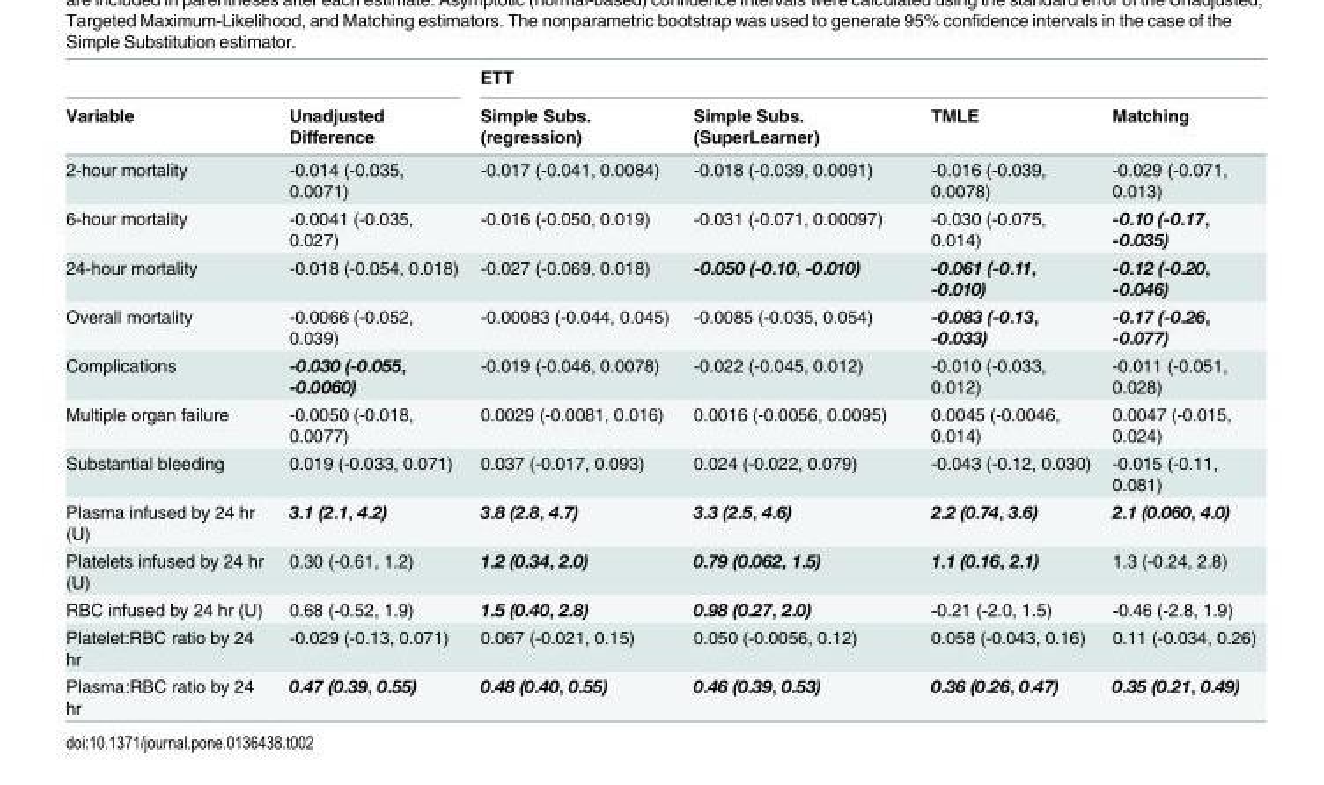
<table><thead><tr><td rowspan="2">Variable</td><td rowspan="2">Unadjusted Difference</td><td colspan="4">ETT</td></tr><tr><td>Simple Subs. (regression)</td><td>Simple Subs. (SuperLearner)</td><td>TMLE</td><td>Matching</td></tr></thead><tbody><tr><td>2-hour mortality</td><td>-0.014 (-0.035, 0.0071)</td><td>-0.017 (-0.041, 0.0084)</td><td>-0.018 (-0.039, 0.0091)</td><td>-0.016 (-0.039, 0.0078)</td><td>-0.029 (-0.071, 0.013)</td></tr><tr><td>6-hour mortality</td><td>-0.0041 (-0.035, 0.027)</td><td>-0.016 (-0.050, 0.019)</td><td>-0.031 (-0.071, 0.00097)</td><td>-0.030 (-0.075, 0.014)</td><td>-0.10 (-0.17, -0.035)</td></tr><tr><td>24-hour mortality</td><td>-0.018 (-0.054, 0.018)</td><td>-0.027 (-0.069, 0.018)</td><td>-0.050 (-0.10, -0.010)</td><td>-0.061 (-0.11, -0.010)</td><td>-0.12 (-0.20, -0.046)</td></tr><tr><td>Overall mortality</td><td>-0.0066 (-0.052, 0.039)</td><td>-0.00083 (-0.044, 0.045)</td><td>-0.0085 (-0.035, 0.054)</td><td>-0.083 (-0.13, -0.033)</td><td>-0.17 (-0.26, -0.077)</td></tr><tr><td>Complications</td><td>-0.030 (-0.055, -0.0060)</td><td>-0.019 (-0.046, 0.0078)</td><td>-0.022 (-0.045, 0.012)</td><td>-0.010 (-0.033, 0.012)</td><td>-0.011 (-0.051, 0.028)</td></tr><tr><td>Multiple organ failure</td><td>-0.0050 (-0.018, 0.0077)</td><td>0.0029 (-0.0081, 0.016)</td><td>0.0016 (-0.0056, 0.0095)</td><td>0.0045 (-0.0046, 0.014)</td><td>0.0047 (-0.015, 0.024)</td></tr><tr><td>Substantial bleeding</td><td>0.019 (-0.033, 0.071)</td><td>0.037 (-0.017, 0.093)</td><td>0.024 (-0.022, 0.079)</td><td>-0.043 (-0.12, 0.030)</td><td>-0.015 (-0.11, 0.081)</td></tr><tr><td>Plasma infused by 24 hr (U)</td><td>3.1 (2.1, 4.2)</td><td>3.8 (2.8, 4.7)</td><td>3.3 (2.5, 4.6)</td><td>2.2 (0.74, 3.6)</td><td>2.1 (0.060, 4.0)</td></tr><tr><td>Platelets infused by 24 hr (U)</td><td>0.30 (-0.61, 1.2)</td><td>1.2 (0.34, 2.0)</td><td>0.79 (0.062, 1.5)</td><td>1.1 (0.16, 2.1)</td><td>1.3 (-0.24, 2.8)</td></tr><tr><td>RBC infused by 24 hr (U)</td><td>0.68 (-0.52, 1.9)</td><td>1.5 (0.40, 2.8)</td><td>0.98 (0.27, 2.0)</td><td>-0.21 (-2.0, 1.5)</td><td>-0.46 (-2.8, 1.9)</td></tr><tr><td>Platelet:RBC ratio by 24 hr</td><td>-0.029 (-0.13, 0.071)</td><td>0.067 (-0.021, 0.15)</td><td>0.050 (-0.0056, 0.12)</td><td>0.058 (-0.043, 0.16)</td><td>0.11 (-0.034, 0.26)</td></tr><tr><td>Plasma:RBC ratio by 24 hr</td><td>0.47 (0.39, 0.55)</td><td>0.48 (0.40, 0.55)</td><td>0.46 (0.39, 0.53)</td><td>0.36 (0.26, 0.47)</td><td>0.35 (0.21, 0.49)</td></tr></tbody></table>